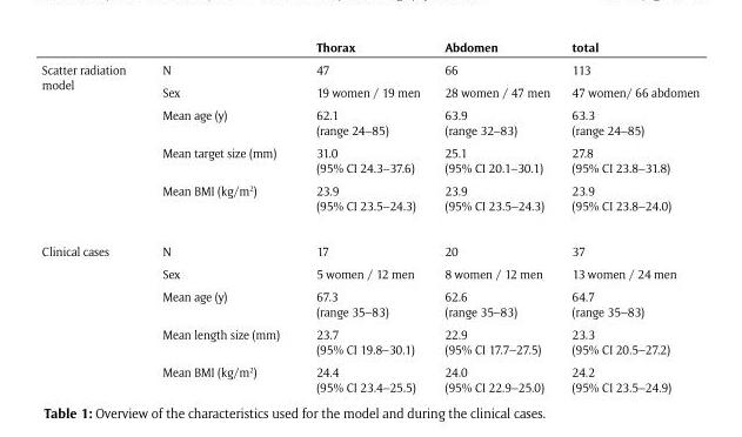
<table><thead><tr><td></td><td></td><td>Thorax</td><td>Abdomen</td><td>total</td></tr></thead><tbody><tr><td rowspan="5">Scatter radiation model</td><td>N</td><td>47</td><td>66</td><td>113</td></tr><tr><td>Sex</td><td>19 women / 19 men</td><td>28 women / 47 men</td><td>47 women/ 66 abdomen</td></tr><tr><td>Mean age (y)</td><td>62.1 (range 24–85)</td><td>63.9 (range 32–83)</td><td>63.3 (range 24–85)</td></tr><tr><td>Mean target size (mm)</td><td>31.0 (95% CI 24.3–37.6)</td><td>25.1 (95% CI 20.1–30.1)</td><td>27.8 (95% CI 23.8–31.8)</td></tr><tr><td>Mean BMI (kg/m<sup>2</sup>)</td><td>23.9 (95% CI 23.5–24.3)</td><td>23.9 (95% CI 23.5–24.3)</td><td>23.9 (95% CI 23.8–24.0)</td></tr><tr><td rowspan="5">Clinical cases</td><td>N</td><td>17</td><td>20</td><td>37</td></tr><tr><td>Sex</td><td>5 women / 12 men</td><td>8 women / 12 men</td><td>13 women / 24 men</td></tr><tr><td>Mean age (y)</td><td>67.3 (range 35–83)</td><td>62.6 (range 35–83)</td><td>64.7 (range 35–83)</td></tr><tr><td>Mean length size (mm)</td><td>23.7 (95% CI 19.8–30.1)</td><td>22.9 (95% CI 17.7–27.5)</td><td>23.3 (95% CI 20.5–27.2)</td></tr><tr><td>Mean BMI (kg/m<sup>2</sup>)</td><td>24.4 (95% CI 23.4–25.5)</td><td>24.0 (95% CI 22.9–25.0)</td><td>24.2 (95% CI 23.5–24.9)</td></tr></tbody></table>